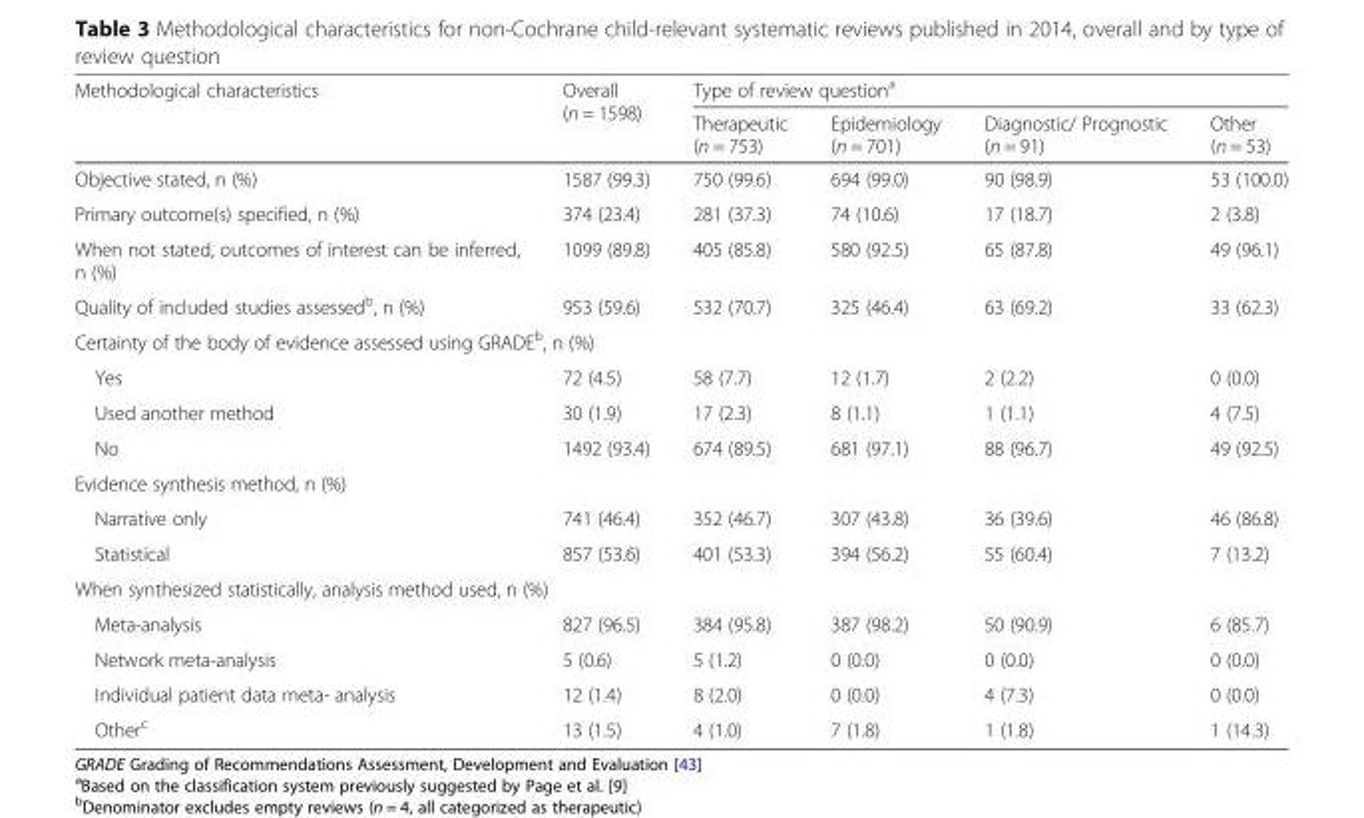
<table><thead><tr><td rowspan="2">Methodological characteristics</td><td rowspan="2">Overall (n = 1598)</td><td colspan="4">Type of review question<sup>a</sup></td></tr><tr><td>Therapeutic (n = 753)</td><td>Epidemiology (n = 701)</td><td>Diagnostic/ Prognostic (n = 91)</td><td>Other (n = 53)</td></tr></thead><tbody><tr><td>Objective stated, n (%)</td><td>1587 (99.3)</td><td>750 (99.6)</td><td>694 (99.0)</td><td>90 (98.9)</td><td>53 (100.0)</td></tr><tr><td>Primary outcome(s) specified, n (%)</td><td>374 (23.4)</td><td>281 (37.3)</td><td>74 (10.6)</td><td>17 (18.7)</td><td>2 (3.8)</td></tr><tr><td>When not stated, outcomes of interest can be inferred, n (%)</td><td>1099 (89.8)</td><td>405 (85.8)</td><td>580 (92.5)</td><td>65 (87.8)</td><td>49 (96.1)</td></tr><tr><td>Quality of included studies assessed<sup>b</sup>, n (%)</td><td>953 (59.6)</td><td>532 (70.7)</td><td>325 (46.4)</td><td>63 (69.2)</td><td>33 (62.3)</td></tr><tr><td colspan="6">Certainty of the body of evidence assessed using GRADE<sup>b</sup>, n (%)</td></tr><tr><td>Yes</td><td>72 (4.5)</td><td>58 (7.7)</td><td>12 (1.7)</td><td>2 (2.2)</td><td>0 (0.0)</td></tr><tr><td>Used another method</td><td>30 (1.9)</td><td>17 (2.3)</td><td>8 (1.1)</td><td>1 (1.1)</td><td>4 (7.5)</td></tr><tr><td>No</td><td>1492 (93.4)</td><td>674 (89.5)</td><td>681 (97.1)</td><td>88 (96.7)</td><td>49 (92.5)</td></tr><tr><td colspan="6">Evidence synthesis method, n (%)</td></tr><tr><td>Narrative only</td><td>741 (46.4)</td><td>352 (46.7)</td><td>307 (43.8)</td><td>36 (39.6)</td><td>46 (86.8)</td></tr><tr><td>Statistical</td><td>857 (53.6)</td><td>401 (53.3)</td><td>394 (56.2)</td><td>55 (60.4)</td><td>7 (13.2)</td></tr><tr><td colspan="6">When synthesized statistically, analysis method used, n (%)</td></tr><tr><td>Meta-analysis</td><td>827 (96.5)</td><td>384 (95.8)</td><td>387 (98.2)</td><td>50 (90.9)</td><td>6 (85.7)</td></tr><tr><td>Network meta-analysis</td><td>5 (0.6)</td><td>5 (1.2)</td><td>0 (0.0)</td><td>0 (0.0)</td><td>0 (0.0)</td></tr><tr><td>Individual patient data meta- analysis</td><td>12 (1.4)</td><td>8 (2.0)</td><td>0 (0.0)</td><td>4 (7.3)</td><td>0 (0.0)</td></tr><tr><td>Other<sup>c</sup></td><td>13 (1.5)</td><td>4 (1.0)</td><td>7 (1.8)</td><td>1 (1.8)</td><td>1 (14.3)</td></tr></tbody></table>